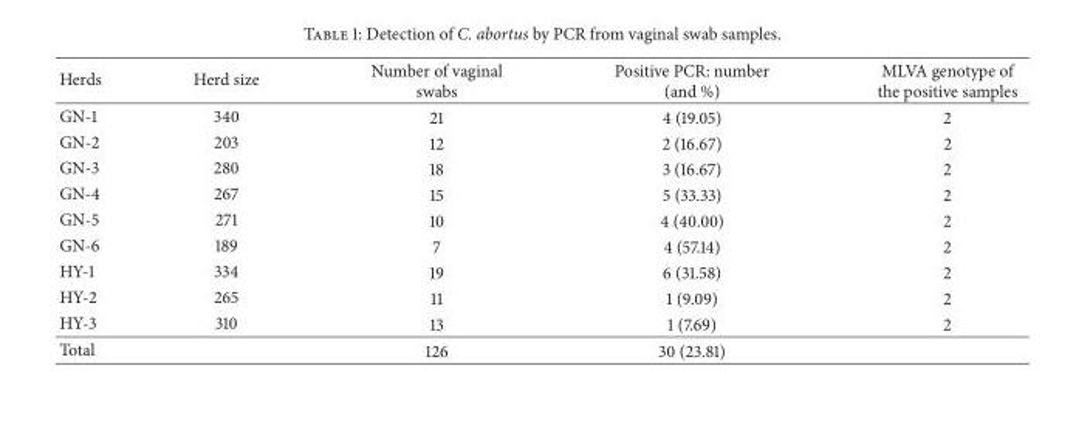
<table><thead><tr><td>Herds</td><td>Herd size</td><td>Number of vaginal swabs</td><td>Positive PCR: number (and %)</td><td>MLVA genotype of the positive samples</td></tr></thead><tbody><tr><td>GN-1</td><td>340</td><td>21</td><td>4 (19.05)</td><td>2</td></tr><tr><td>GN-2</td><td>203</td><td>12</td><td>2 (16.67)</td><td>2</td></tr><tr><td>GN-3</td><td>280</td><td>18</td><td>3 (16.67)</td><td>2</td></tr><tr><td>GN-4</td><td>267</td><td>15</td><td>5 (33.33)</td><td>2</td></tr><tr><td>GN-5</td><td>271</td><td>10</td><td>4 (40.00)</td><td>2</td></tr><tr><td>GN-6</td><td>189</td><td>7</td><td>4 (57.14)</td><td>2</td></tr><tr><td>HY-1</td><td>334</td><td>19</td><td>6 (31.58)</td><td>2</td></tr><tr><td>HY-2</td><td>265</td><td>11</td><td>1 (9.09)</td><td>2</td></tr><tr><td>HY-3</td><td>310</td><td>13</td><td>1 (7.69)</td><td>2</td></tr><tr><td>Total</td><td></td><td>126</td><td>30 (23.81)</td><td></td></tr></tbody></table>